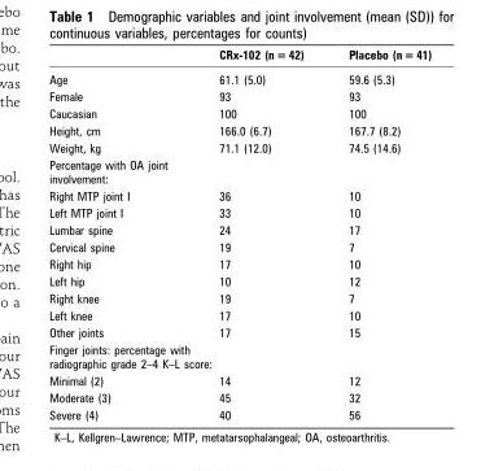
<table><thead><tr><td></td><td>CRx-102 (n = 42)</td><td>Placebo (n = 41)</td></tr></thead><tbody><tr><td>Age</td><td>61.1 (5.0)</td><td>59.6 (5.3)</td></tr><tr><td>Female</td><td>93</td><td>93</td></tr><tr><td>Caucasian</td><td>100</td><td>100</td></tr><tr><td>Height, cm</td><td>166.0 (6.7)</td><td>167.7 (8.2)</td></tr><tr><td>Weight, kg</td><td>71.1 (12.0)</td><td>74.5 (14.6)</td></tr><tr><td colspan="3">Percentage with OA joint involvement:</td></tr><tr><td>Right MTP joint I</td><td>36</td><td>10</td></tr><tr><td>Left MTP joint I</td><td>33</td><td>10</td></tr><tr><td>Lumbar spine</td><td>24</td><td>17</td></tr><tr><td>Cervical spine</td><td>19</td><td>7</td></tr><tr><td>Right hip</td><td>17</td><td>10</td></tr><tr><td>Left hip</td><td>10</td><td>12</td></tr><tr><td>Right knee</td><td>19</td><td>7</td></tr><tr><td>Left knee</td><td>17</td><td>10</td></tr><tr><td>Other joints</td><td>17</td><td>15</td></tr><tr><td colspan="3">Finger joints: percentage with radiographic grade 2–4 K–L score:</td></tr><tr><td>Minimal (2)</td><td>14</td><td>12</td></tr><tr><td>Moderate (3)</td><td>45</td><td>32</td></tr><tr><td>Severe (4)</td><td>40</td><td>56</td></tr></tbody></table>